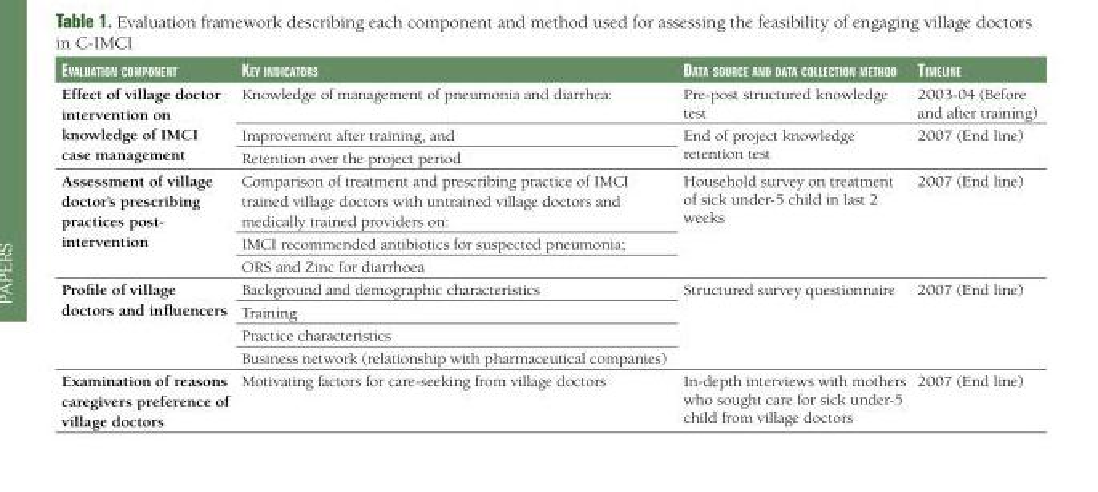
<table><thead><tr><td>Evaluation componEnt</td><td>KEy indicators</td><td>data sourcE and data collEction mEthod</td><td>timElinE</td></tr></thead><tbody><tr><td rowspan="3">Effect of village doctor intervention on knowledge of IMCI case management</td><td>Knowledge of management of pneumonia and diarrhea:</td><td>Pre-post structured knowledge test</td><td>2003-04 (Before and after training)</td></tr><tr><td>Improvement after training, and</td><td rowspan="2">End of project knowledge retention test</td><td rowspan="2">2007 (End line)</td></tr><tr><td>Retention over the project period</td></tr><tr><td rowspan="3">Assessment of village doctor’s prescribing practices post- intervention</td><td>Comparison of treatment and prescribing practice of IMCI trained village doctors with untrained village doctors and medically trained providers on:</td><td rowspan="3">Household survey on treatment of sick under-5 child in last 2 weeks</td><td rowspan="3">2007 (End line)</td></tr><tr><td>IMCI recommended antibiotics for suspected pneumonia;</td></tr><tr><td>ORS and Zinc for diarrhoea</td></tr><tr><td rowspan="4">Profile of village doctors and influencers</td><td>Background and demographic characteristics</td><td rowspan="4">Structured survey questionnaire</td><td rowspan="4">2007 (End line)</td></tr><tr><td>Training</td></tr><tr><td>Practice characteristics</td></tr><tr><td>Business network (relationship with pharmaceutical companies)</td></tr><tr><td>Examination of reasons caregivers preference of village doctors</td><td>Motivating factors for care-seeking from village doctors</td><td>In-depth interviews with mothers who sought care for sick under-5 child from village doctors</td><td>2007 (End line)</td></tr></tbody></table>